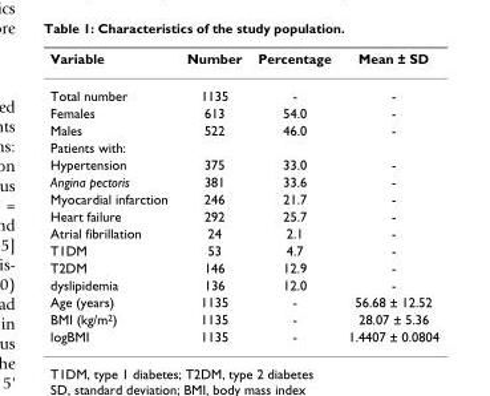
<table><thead><tr><td>Variable</td><td>Number</td><td>Percentage</td><td>Mean ± SD</td></tr></thead><tbody><tr><td>Total number</td><td>1135</td><td>-</td><td>-</td></tr><tr><td>Females</td><td>613</td><td>54.0</td><td>-</td></tr><tr><td>Males</td><td>522</td><td>46.0</td><td>-</td></tr><tr><td colspan="4">Patients with:</td></tr><tr><td>Hypertension</td><td>375</td><td>33.0</td><td>-</td></tr><tr><td>Angina pectoris</td><td>381</td><td>33.6</td><td>-</td></tr><tr><td>Myocardial infarction</td><td>246</td><td>21.7</td><td>-</td></tr><tr><td>Heart failure</td><td>292</td><td>25.7</td><td>-</td></tr><tr><td>Atrial fibrillation</td><td>24</td><td>2.1</td><td>-</td></tr><tr><td>T1DM</td><td>53</td><td>4.7</td><td>-</td></tr><tr><td>T2DM</td><td>146</td><td>12.9</td><td>-</td></tr><tr><td>dyslipidemia</td><td>136</td><td>12.0</td><td>-</td></tr><tr><td>Age (years)</td><td>1135</td><td>-</td><td>56.68 ± 12.52</td></tr><tr><td>BMI (kg/m<sup>2</sup>)</td><td>1135</td><td>-</td><td>28.07 ± 5.36</td></tr><tr><td>logBMI</td><td>1135</td><td>-</td><td>1.4407 ± 0.0804</td></tr></tbody></table>